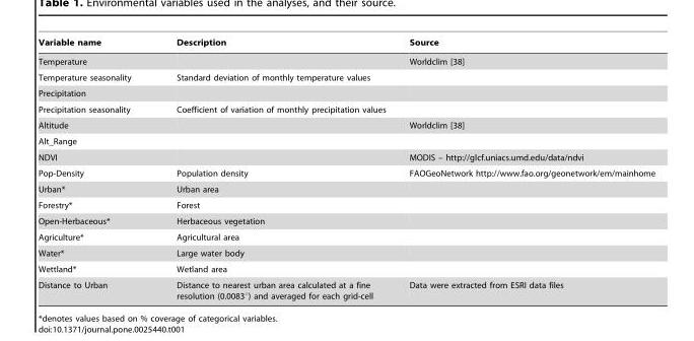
<table><thead><tr><td>Variable name</td><td>Description</td><td>Source</td></tr></thead><tbody><tr><td>Temperature</td><td></td><td>Worldclim [38]</td></tr><tr><td>Temperature seasonality</td><td>Standard deviation of monthly temperature values</td><td></td></tr><tr><td colspan="3">Precipitation</td></tr><tr><td>Precipitation seasonality</td><td>Coefficient of variation of monthly precipitation values</td><td></td></tr><tr><td>Altitude</td><td></td><td>Worldclim [38]</td></tr><tr><td colspan="3">Alt_Range</td></tr><tr><td>NDVI</td><td></td><td>MODIS – http://glcf.uniacs.umd.edu/data/ndvi</td></tr><tr><td>Pop-Density</td><td>Population density</td><td>FAOGeoNetwork http://www.fao.org/geonetwork/em/mainhome</td></tr><tr><td>Urban*</td><td>Urban area</td><td></td></tr><tr><td>Forestry*</td><td>Forest</td><td></td></tr><tr><td>Open-Herbaceous*</td><td>Herbaceous vegetation</td><td></td></tr><tr><td>Agriculture*</td><td>Agricultural area</td><td></td></tr><tr><td>Water*</td><td>Large water body</td><td></td></tr><tr><td>Wettland*</td><td>Wetland area</td><td></td></tr><tr><td>Distance to Urban</td><td>Distance to nearest urban area calculated at a fine resolution (0.0083°) and averaged for each grid-cell</td><td>Data were extracted from ESRI data files</td></tr></tbody></table>